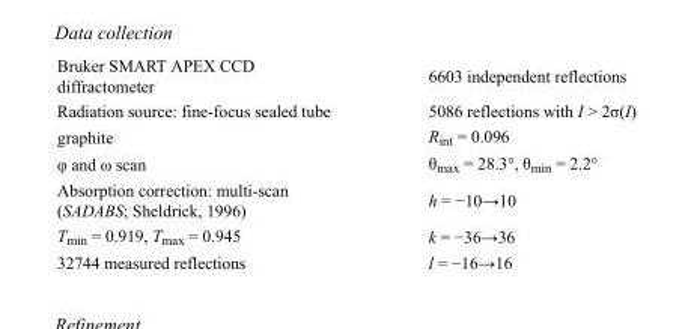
<table><tbody><tr><td>Bruker SMART APEX CCD diffractometer</td><td>6603 independent reflections</td></tr><tr><td>Radiation source: fine-focus sealed tube</td><td>5086 reflections with I &gt; 2σ(I)</td></tr><tr><td>graphite</td><td>R<sub>int</sub> = 0.096</td></tr><tr><td>φ and ω scan</td><td>θ<sub>max</sub> = 28.3°, θ<sub>min</sub> = 2.2°</td></tr><tr><td>Absorption correction: multi-scan (SADABS; Sheldrick, 1996)</td><td>h = −10→10</td></tr><tr><td>T<sub>min</sub> = 0.919, T<sub>max</sub> = 0.945</td><td>k = −36→36</td></tr><tr><td>32744 measured reflections</td><td>l = −16→16</td></tr></tbody></table>